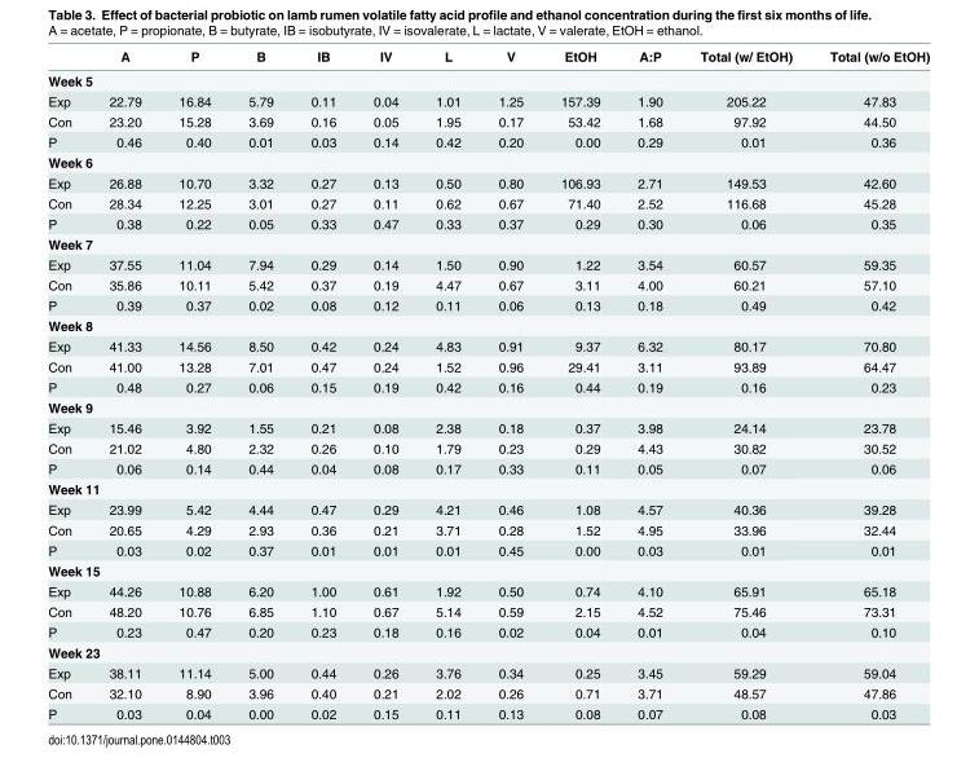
<table><thead><tr><td></td><td>A</td><td>P</td><td>B</td><td>IB</td><td>IV</td><td>L</td><td>V</td><td>EtOH</td><td>A:P</td><td>Total (w/ EtOH)</td><td>Total (w/o EtOH)</td></tr></thead><tbody><tr><td colspan="12">Week 5</td></tr><tr><td>Exp</td><td>22.79</td><td>16.84</td><td>5.79</td><td>0.11</td><td>0.04</td><td>1.01</td><td>1.25</td><td>157.39</td><td>1.90</td><td>205.22</td><td>47.83</td></tr><tr><td>Con</td><td>23.20</td><td>15.28</td><td>3.69</td><td>0.16</td><td>0.05</td><td>1.95</td><td>0.17</td><td>53.42</td><td>1.68</td><td>97.92</td><td>44.50</td></tr><tr><td>P</td><td>0.46</td><td>0.40</td><td>0.01</td><td>0.03</td><td>0.14</td><td>0.42</td><td>0.20</td><td>0.00</td><td>0.29</td><td>0.01</td><td>0.36</td></tr><tr><td colspan="12">Week 6</td></tr><tr><td>Exp</td><td>26.88</td><td>10.70</td><td>3.32</td><td>0.27</td><td>0.13</td><td>0.50</td><td>0.80</td><td>106.93</td><td>2.71</td><td>149.53</td><td>42.60</td></tr><tr><td>Con</td><td>28.34</td><td>12.25</td><td>3.01</td><td>0.27</td><td>0.11</td><td>0.62</td><td>0.67</td><td>71.40</td><td>2.52</td><td>116.68</td><td>45.28</td></tr><tr><td>P</td><td>0.38</td><td>0.22</td><td>0.05</td><td>0.33</td><td>0.47</td><td>0.33</td><td>0.37</td><td>0.29</td><td>0.30</td><td>0.06</td><td>0.35</td></tr><tr><td colspan="12">Week 7</td></tr><tr><td>Exp</td><td>37.55</td><td>11.04</td><td>7.94</td><td>0.29</td><td>0.14</td><td>1.50</td><td>0.90</td><td>1.22</td><td>3.54</td><td>60.57</td><td>59.35</td></tr><tr><td>Con</td><td>35.86</td><td>10.11</td><td>5.42</td><td>0.37</td><td>0.19</td><td>4.47</td><td>0.67</td><td>3.11</td><td>4.00</td><td>60.21</td><td>57.10</td></tr><tr><td>P</td><td>0.39</td><td>0.37</td><td>0.02</td><td>0.08</td><td>0.12</td><td>0.11</td><td>0.06</td><td>0.13</td><td>0.18</td><td>0.49</td><td>0.42</td></tr><tr><td colspan="12">Week 8</td></tr><tr><td>Exp</td><td>41.33</td><td>14.56</td><td>8.50</td><td>0.42</td><td>0.24</td><td>4.83</td><td>0.91</td><td>9.37</td><td>6.32</td><td>80.17</td><td>70.80</td></tr><tr><td>Con</td><td>41.00</td><td>13.28</td><td>7.01</td><td>0.47</td><td>0.24</td><td>1.52</td><td>0.96</td><td>29.41</td><td>3.11</td><td>93.89</td><td>64.47</td></tr><tr><td>P</td><td>0.48</td><td>0.27</td><td>0.06</td><td>0.15</td><td>0.19</td><td>0.42</td><td>0.16</td><td>0.44</td><td>0.19</td><td>0.16</td><td>0.23</td></tr><tr><td colspan="12">Week 9</td></tr><tr><td>Exp</td><td>15.46</td><td>3.92</td><td>1.55</td><td>0.21</td><td>0.08</td><td>2.38</td><td>0.18</td><td>0.37</td><td>3.98</td><td>24.14</td><td>23.78</td></tr><tr><td>Con</td><td>21.02</td><td>4.80</td><td>2.32</td><td>0.26</td><td>0.10</td><td>1.79</td><td>0.23</td><td>0.29</td><td>4.43</td><td>30.82</td><td>30.52</td></tr><tr><td>P</td><td>0.06</td><td>0.14</td><td>0.44</td><td>0.04</td><td>0.08</td><td>0.17</td><td>0.33</td><td>0.11</td><td>0.05</td><td>0.07</td><td>0.06</td></tr><tr><td colspan="12">Week 11</td></tr><tr><td>Exp</td><td>23.99</td><td>5.42</td><td>4.44</td><td>0.47</td><td>0.29</td><td>4.21</td><td>0.46</td><td>1.08</td><td>4.57</td><td>40.36</td><td>39.28</td></tr><tr><td>Con</td><td>20.65</td><td>4.29</td><td>2.93</td><td>0.36</td><td>0.21</td><td>3.71</td><td>0.28</td><td>1.52</td><td>4.95</td><td>33.96</td><td>32.44</td></tr><tr><td>P</td><td>0.03</td><td>0.02</td><td>0.37</td><td>0.01</td><td>0.01</td><td>0.01</td><td>0.45</td><td>0.00</td><td>0.03</td><td>0.01</td><td>0.01</td></tr><tr><td colspan="12">Week 15</td></tr><tr><td>Exp</td><td>44.26</td><td>10.88</td><td>6.20</td><td>1.00</td><td>0.61</td><td>1.92</td><td>0.50</td><td>0.74</td><td>4.10</td><td>65.91</td><td>65.18</td></tr><tr><td>Con</td><td>48.20</td><td>10.76</td><td>6.85</td><td>1.10</td><td>0.67</td><td>5.14</td><td>0.59</td><td>2.15</td><td>4.52</td><td>75.46</td><td>73.31</td></tr><tr><td>P</td><td>0.23</td><td>0.47</td><td>0.20</td><td>0.23</td><td>0.18</td><td>0.16</td><td>0.02</td><td>0.04</td><td>0.01</td><td>0.04</td><td>0.10</td></tr><tr><td colspan="12">Week 23</td></tr><tr><td>Exp</td><td>38.11</td><td>11.14</td><td>5.00</td><td>0.44</td><td>0.26</td><td>3.76</td><td>0.34</td><td>0.25</td><td>3.45</td><td>59.29</td><td>59.04</td></tr><tr><td>Con</td><td>32.10</td><td>8.90</td><td>3.96</td><td>0.40</td><td>0.21</td><td>2.02</td><td>0.26</td><td>0.71</td><td>3.71</td><td>48.57</td><td>47.86</td></tr><tr><td>P</td><td>0.03</td><td>0.04</td><td>0.00</td><td>0.02</td><td>0.15</td><td>0.11</td><td>0.13</td><td>0.08</td><td>0.07</td><td>0.08</td><td>0.03</td></tr></tbody></table>